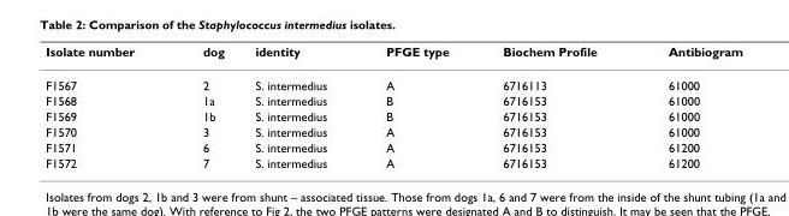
<table><thead><tr><td>Isolate number</td><td>dog</td><td>identity</td><td>PFGE type</td><td>Biochem Profile</td><td>Antibiogram</td></tr></thead><tbody><tr><td>F1567</td><td>2</td><td>S. intermedius</td><td>A</td><td>6716113</td><td>61000</td></tr><tr><td>F1568</td><td>1a</td><td>S. intermedius</td><td>B</td><td>6716153</td><td>61000</td></tr><tr><td>F1569</td><td>1b</td><td>S. intermedius</td><td>B</td><td>6716153</td><td>61000</td></tr><tr><td>F1570</td><td>3</td><td>S. intermedius</td><td>A</td><td>6716153</td><td>61000</td></tr><tr><td>F1571</td><td>6</td><td>S. intermedius</td><td>A</td><td>6716153</td><td>61200</td></tr><tr><td>F1572</td><td>7</td><td>S. intermedius</td><td>A</td><td>6716153</td><td>61200</td></tr></tbody></table>